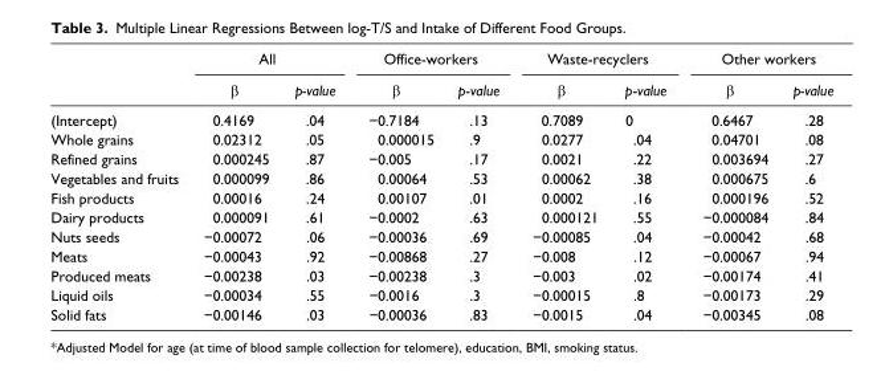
<table><thead><tr><td rowspan="2"></td><td colspan="2">All</td><td colspan="2">Office-workers</td><td colspan="2">Waste-recyclers</td><td colspan="2">Other workers</td></tr><tr><td>β</td><td>p-value</td><td>β</td><td>p-value</td><td>β</td><td>p-value</td><td>β</td><td>p-value</td></tr></thead><tbody><tr><td>(Intercept)</td><td>0.4169</td><td>.04</td><td>−0.7184</td><td>.13</td><td>0.7089</td><td>0</td><td>0.6467</td><td>.28</td></tr><tr><td>Whole grains</td><td>0.02312</td><td>.05</td><td>0.000015</td><td>.9</td><td>0.0277</td><td>.04</td><td>0.04701</td><td>.08</td></tr><tr><td>Refined grains</td><td>0.000245</td><td>.87</td><td>−0.005</td><td>.17</td><td>0.0021</td><td>.22</td><td>0.003694</td><td>.27</td></tr><tr><td>Vegetables and fruits</td><td>0.000099</td><td>.86</td><td>0.00064</td><td>.53</td><td>0.00062</td><td>.38</td><td>0.000675</td><td>.6</td></tr><tr><td>Fish products</td><td>0.00016</td><td>.24</td><td>0.00107</td><td>.01</td><td>0.0002</td><td>.16</td><td>0.000196</td><td>.52</td></tr><tr><td>Dairy products</td><td>0.000091</td><td>.61</td><td>−0.0002</td><td>.63</td><td>0.000121</td><td>.55</td><td>−0.000084</td><td>.84</td></tr><tr><td>Nuts seeds</td><td>−0.00072</td><td>.06</td><td>−0.00036</td><td>.69</td><td>−0.00085</td><td>.04</td><td>−0.00042</td><td>.68</td></tr><tr><td>Meats</td><td>−0.00043</td><td>.92</td><td>−0.00868</td><td>.27</td><td>−0.008</td><td>.12</td><td>−0.00067</td><td>.94</td></tr><tr><td>Produced meats</td><td>−0.00238</td><td>.03</td><td>−0.00238</td><td>.3</td><td>−0.003</td><td>.02</td><td>−0.00174</td><td>.41</td></tr><tr><td>Liquid oils</td><td>−0.00034</td><td>.55</td><td>−0.0016</td><td>.3</td><td>−0.00015</td><td>.8</td><td>−0.00173</td><td>.29</td></tr><tr><td>Solid fats</td><td>−0.00146</td><td>.03</td><td>−0.00036</td><td>.83</td><td>−0.0015</td><td>.04</td><td>−0.00345</td><td>.08</td></tr></tbody></table>